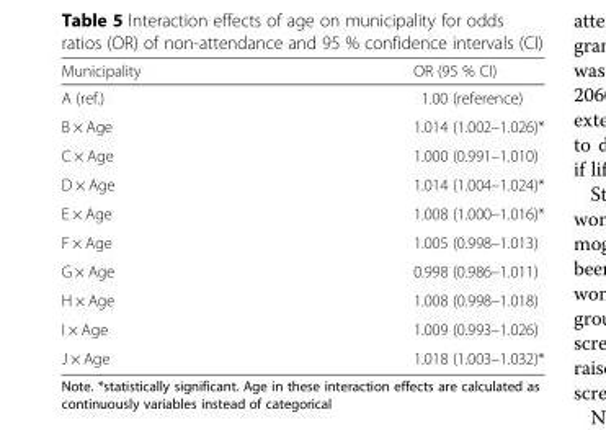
<table><thead><tr><td>Municipality</td><td>OR (95 % CI)</td></tr></thead><tbody><tr><td>A (ref.)</td><td>1.00 (reference)</td></tr><tr><td>B × Age</td><td>1.014 (1.002–1.026)*</td></tr><tr><td>C × Age</td><td>1.000 (0.991–1.010)</td></tr><tr><td>D × Age</td><td>1.014 (1.004–1.024)*</td></tr><tr><td>E × Age</td><td>1.008 (1.000–1.016)*</td></tr><tr><td>F × Age</td><td>1.005 (0.998–1.013)</td></tr><tr><td>G × Age</td><td>0.998 (0.986–1.011)</td></tr><tr><td>H × Age</td><td>1.008 (0.998–1.018)</td></tr><tr><td>I × Age</td><td>1.009 (0.993–1.026)</td></tr><tr><td>J × Age</td><td>1.018 (1.003–1.032)*</td></tr></tbody></table>